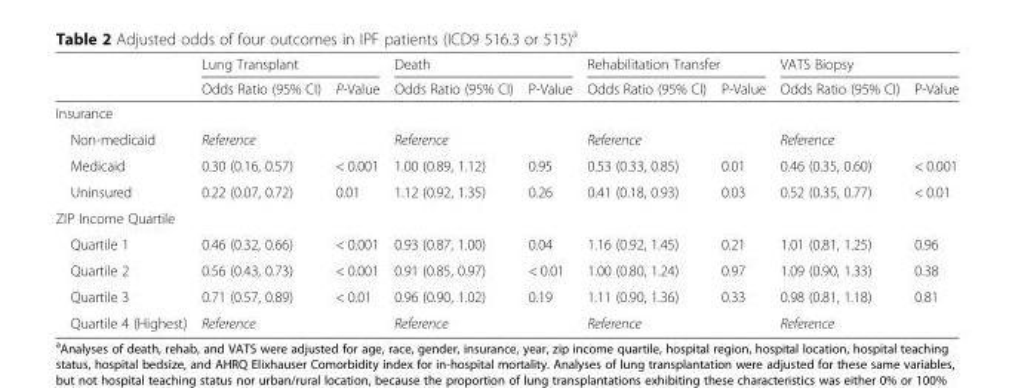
<table><thead><tr><td rowspan="2"></td><td colspan="2">Lung Transplant</td><td colspan="2">Death</td><td colspan="2">Rehabilitation Transfer</td><td colspan="2">VATS Biopsy</td></tr><tr><td>Odds Ratio (95% CI)</td><td>P-Value</td><td>Odds Ratio (95% CI)</td><td>P-Value</td><td>Odds Ratio (95% CI)</td><td>P-Value</td><td>Odds Ratio (95% CI)</td><td>P-Value</td></tr></thead><tbody><tr><td colspan="9">Insurance</td></tr><tr><td>Non-medicaid</td><td colspan="2">Reference</td><td>Reference</td><td></td><td>Reference</td><td></td><td>Reference</td><td></td></tr><tr><td>Medicaid</td><td>0.30 (0.16, 0.57)</td><td>&lt; 0.001</td><td>1.00 (0.89, 1.12)</td><td>0.95</td><td>0.53 (0.33, 0.85)</td><td>0.01</td><td>0.46 (0.35, 0.60)</td><td>&lt; 0.001</td></tr><tr><td>Uninsured</td><td>0.22 (0.07, 0.72)</td><td>0.01</td><td>1.12 (0.92, 1.35)</td><td>0.26</td><td>0.41 (0.18, 0.93)</td><td>0.03</td><td>0.52 (0.35, 0.77)</td><td>&lt; 0.01</td></tr><tr><td colspan="9">ZIP Income Quartile</td></tr><tr><td>Quartile 1</td><td>0.46 (0.32, 0.66)</td><td>&lt; 0.001</td><td>0.93 (0.87, 1.00)</td><td>0.04</td><td>1.16 (0.92, 1.45)</td><td>0.21</td><td>1.01 (0.81, 1.25)</td><td>0.96</td></tr><tr><td>Quartile 2</td><td>0.56 (0.43, 0.73)</td><td>&lt; 0.001</td><td>0.91 (0.85, 0.97)</td><td>&lt; 0.01</td><td>1.00 (0.80, 1.24)</td><td>0.97</td><td>1.09 (0.90, 1.33)</td><td>0.38</td></tr><tr><td>Quartile 3</td><td>0.71 (0.57, 0.89)</td><td>&lt; 0.01</td><td>0.96 (0.90, 1.02)</td><td>0.19</td><td>1.11 (0.90, 1.36)</td><td>0.33</td><td>0.98 (0.81, 1.18)</td><td>0.81</td></tr><tr><td>Quartile 4 (Highest)</td><td>Reference</td><td></td><td>Reference</td><td></td><td>Reference</td><td></td><td>Reference</td><td></td></tr></tbody></table>